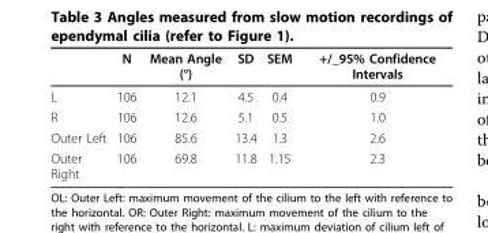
<table><thead><tr><td></td><td>N</td><td>Mean Angle (°)</td><td>SD</td><td>SEM</td><td>+/_95% Confidence Intervals</td></tr></thead><tbody><tr><td>L</td><td>106</td><td>12.1</td><td>4.5</td><td>0.4</td><td>0.9</td></tr><tr><td>R</td><td>106</td><td>12.6</td><td>5.1</td><td>0.5</td><td>1.0</td></tr><tr><td>Outer Left</td><td>106</td><td>85.6</td><td>13.4</td><td>1.3</td><td>2.6</td></tr><tr><td>Outer Right</td><td>106</td><td>69.8</td><td>11.8</td><td>1.15</td><td>2.3</td></tr></tbody></table>